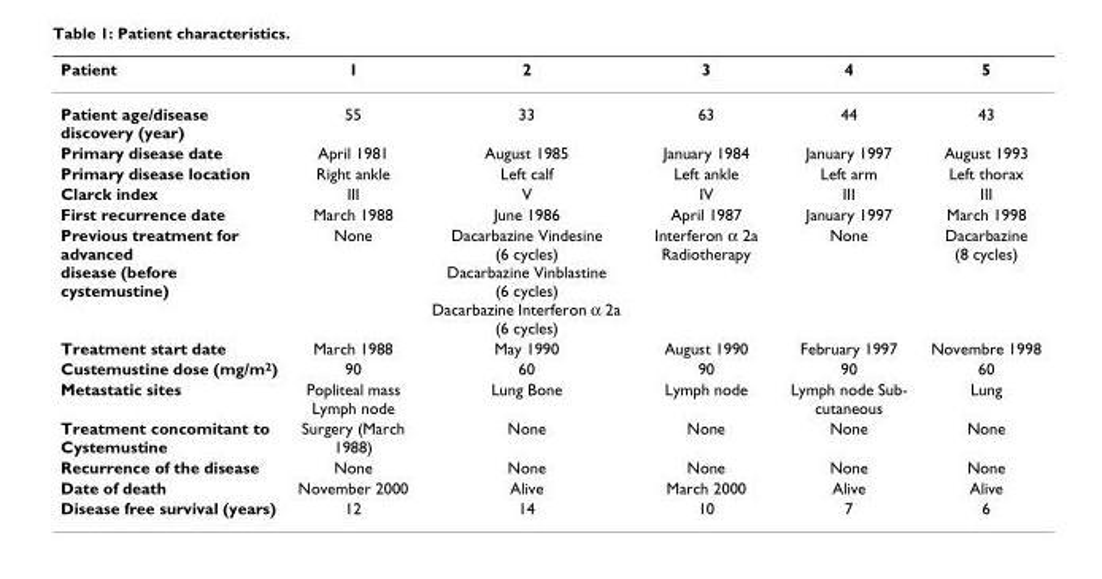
<table><thead><tr><td>Patient</td><td>1</td><td>2</td><td>3</td><td>4</td><td>5</td></tr></thead><tbody><tr><td>Patient age/disease discovery (year)</td><td>55</td><td>33</td><td>63</td><td>44</td><td>43</td></tr><tr><td>Primary disease date</td><td>April 1981</td><td>August 1985</td><td>January 1984</td><td>January 1997</td><td>August 1993</td></tr><tr><td>Primary disease location</td><td>Right ankle</td><td>Left calf</td><td>Left ankle</td><td>Left arm</td><td>Left thorax</td></tr><tr><td>Clarck index</td><td>III</td><td>V</td><td>IV</td><td>III</td><td>III</td></tr><tr><td>First recurrence date</td><td>March 1988</td><td>June 1986</td><td>April 1987</td><td>January 1997</td><td>March 1998</td></tr><tr><td>Previous treatment for advanced disease (before cystemustine)</td><td>None</td><td>Dacarbazine Vindesine (6 cycles) Dacarbazine Vinblastine (6 cycles) Dacarbazine Interferon α 2a (6 cycles)</td><td>Interferon α 2a Radiotherapy</td><td>None</td><td>Dacarbazine (8 cycles)</td></tr><tr><td>Treatment start date</td><td>March 1988</td><td>May 1990</td><td>August 1990</td><td>February 1997</td><td>Novembre 1998</td></tr><tr><td>Custemustine dose (mg/m<sup>2</sup>)</td><td>90</td><td>60</td><td>90</td><td>90</td><td>60</td></tr><tr><td>Metastatic sites</td><td>Popliteal mass Lymph node</td><td>Lung Bone</td><td>Lymph node</td><td>Lymph node Sub- cutaneous</td><td>Lung</td></tr><tr><td>Treatment concomitant to Cystemustine</td><td>Surgery (March 1988)</td><td>None</td><td>None</td><td>None</td><td>None</td></tr><tr><td>Recurrence of the disease</td><td>None</td><td>None</td><td>None</td><td>None</td><td>None</td></tr><tr><td>Date of death</td><td>November 2000</td><td>Alive</td><td>March 2000</td><td>Alive</td><td>Alive</td></tr><tr><td>Disease free survival (years)</td><td>12</td><td>14</td><td>10</td><td>7</td><td>6</td></tr></tbody></table>